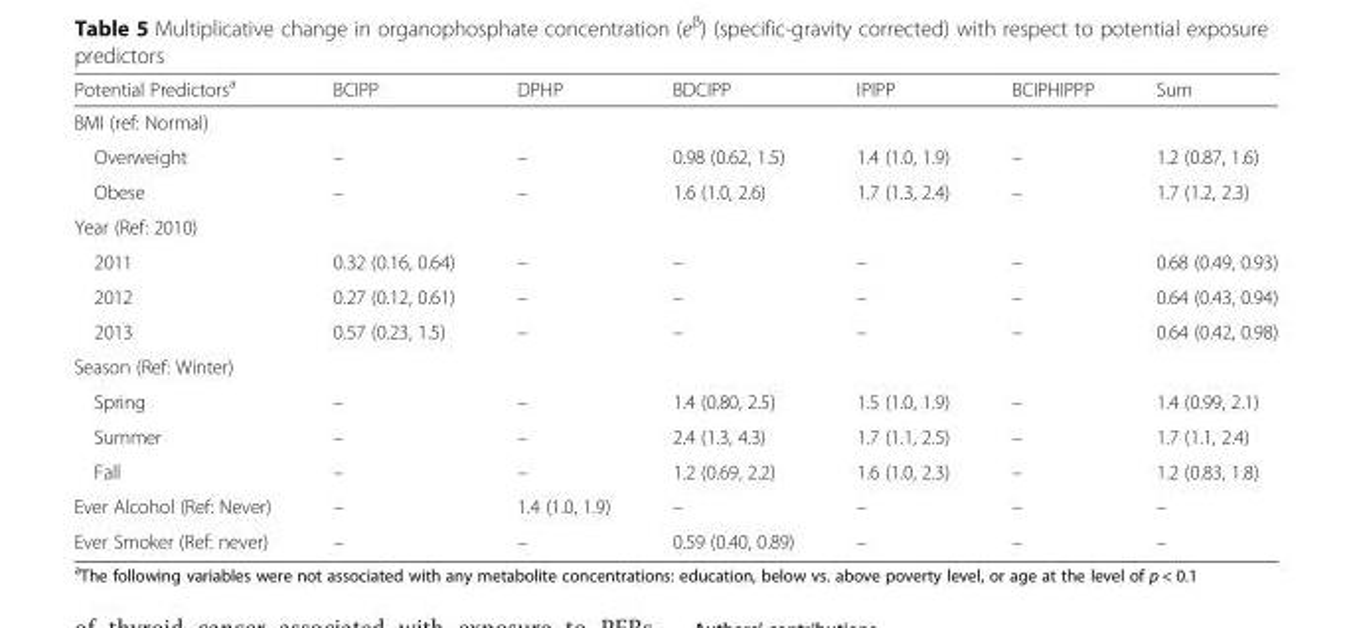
<table><thead><tr><td>Potential Predictors<sup>a</sup></td><td>BCIPP</td><td>DPHP</td><td>BDCIPP</td><td>IPIPP</td><td>BCIPHIPPP</td><td>Sum</td></tr></thead><tbody><tr><td colspan="7">BMI (ref: Normal)</td></tr><tr><td>Overweight</td><td>–</td><td>–</td><td>0.98 (0.62, 1.5)</td><td>1.4 (1.0, 1.9)</td><td>–</td><td>1.2 (0.87, 1.6)</td></tr><tr><td>Obese</td><td>–</td><td>–</td><td>1.6 (1.0, 2.6)</td><td>1.7 (1.3, 2.4)</td><td>–</td><td>1.7 (1.2, 2.3)</td></tr><tr><td colspan="7">Year (Ref: 2010)</td></tr><tr><td>2011</td><td>0.32 (0.16, 0.64)</td><td>–</td><td>–</td><td>–</td><td>–</td><td>0.68 (0.49, 0.93)</td></tr><tr><td>2012</td><td>0.27 (0.12, 0.61)</td><td>–</td><td>–</td><td>–</td><td>–</td><td>0.64 (0.43, 0.94)</td></tr><tr><td>2013</td><td>0.57 (0.23, 1.5)</td><td>–</td><td>–</td><td>–</td><td>–</td><td>0.64 (0.42, 0.98)</td></tr><tr><td colspan="7">Season (Ref: Winter)</td></tr><tr><td>Spring</td><td>–</td><td>–</td><td>1.4 (0.80, 2.5)</td><td>1.5 (1.0, 1.9)</td><td>–</td><td>1.4 (0.99, 2.1)</td></tr><tr><td>Summer</td><td>–</td><td>–</td><td>2.4 (1.3, 4.3)</td><td>1.7 (1.1, 2.5)</td><td>–</td><td>1.7 (1.1, 2.4)</td></tr><tr><td>Fall</td><td>–</td><td>–</td><td>1.2 (0.69, 2.2)</td><td>1.6 (1.0, 2.3)</td><td>–</td><td>1.2 (0.83, 1.8)</td></tr><tr><td>Ever Alcohol (Ref: Never)</td><td>–</td><td>1.4 (1.0, 1.9)</td><td>–</td><td>–</td><td>–</td><td>–</td></tr><tr><td>Ever Smoker (Ref: never)</td><td>–</td><td>–</td><td>0.59 (0.40, 0.89)</td><td>–</td><td>–</td><td>–</td></tr></tbody></table>